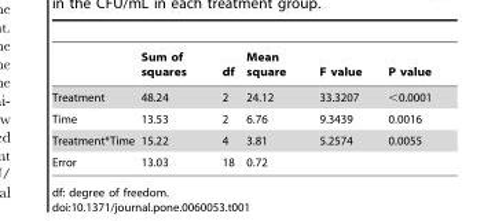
<table><thead><tr><td></td><td>Sum of squares</td><td>df</td><td>Mean square</td><td>F value</td><td>P value</td></tr></thead><tbody><tr><td>Treatment</td><td>48.24</td><td>2</td><td>24.12</td><td>33.3207</td><td>&lt;0.0001</td></tr><tr><td>Time</td><td>13.53</td><td>2</td><td>6.76</td><td>9.3439</td><td>0.0016</td></tr><tr><td>Treatment*Time</td><td>15.22</td><td>4</td><td>3.81</td><td>5.2574</td><td>0.0055</td></tr><tr><td>Error</td><td>13.03</td><td>18</td><td>0.72</td><td></td><td></td></tr></tbody></table>